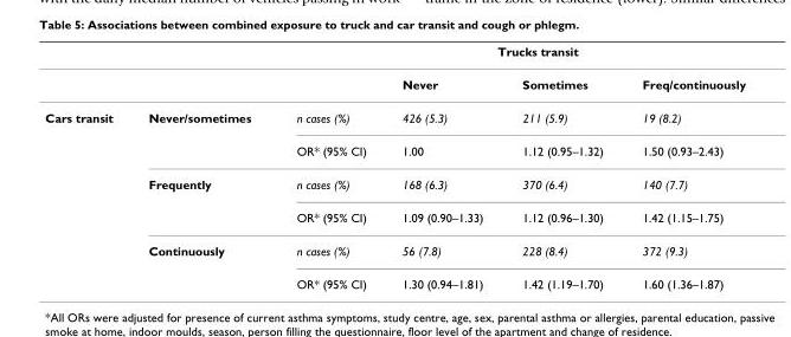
<table><thead><tr><td rowspan="2"></td><td rowspan="2"></td><td colspan="4">Trucks transit</td></tr><tr><td></td><td>Never</td><td>Sometimes</td><td>Freq/continuously</td></tr></thead><tbody><tr><td rowspan="6">Cars transit</td><td>Never/sometimes</td><td>n cases (%)</td><td>426 (5.3)</td><td>211 (5.9)</td><td>19 (8.2)</td></tr><tr><td></td><td>OR* (95% CI)</td><td>1.00</td><td>1.12 (0.95–1.32)</td><td>1.50 (0.93–2.43)</td></tr><tr><td>Frequently</td><td>n cases (%)</td><td>168 (6.3)</td><td>370 (6.4)</td><td>140 (7.7)</td></tr><tr><td></td><td>OR* (95% CI)</td><td>1.09 (0.90–1.33)</td><td>1.12 (0.96–1.30)</td><td>1.42 (1.15–1.75)</td></tr><tr><td>Continuously</td><td>n cases (%)</td><td>56 (7.8)</td><td>228 (8.4)</td><td>372 (9.3)</td></tr><tr><td></td><td>OR* (95% CI)</td><td>1.30 (0.94–1.81)</td><td>1.42 (1.19–1.70)</td><td>1.60 (1.36–1.87)</td></tr></tbody></table>